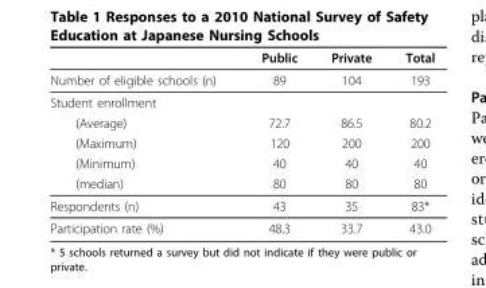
<table><thead><tr><td></td><td>Public</td><td>Private</td><td>Total</td></tr></thead><tbody><tr><td>Number of eligible schools (n)</td><td>89</td><td>104</td><td>193</td></tr><tr><td colspan="4">Student enrollment</td></tr><tr><td>(Average)</td><td>72.7</td><td>86.5</td><td>80.2</td></tr><tr><td>(Maximum)</td><td>120</td><td>200</td><td>200</td></tr><tr><td>(Minimum)</td><td>40</td><td>40</td><td>40</td></tr><tr><td>(median)</td><td>80</td><td>80</td><td>80</td></tr><tr><td>Respondents (n)</td><td>43</td><td>35</td><td>83*</td></tr><tr><td>Participation rate (%)</td><td>48.3</td><td>33.7</td><td>43.0</td></tr></tbody></table>